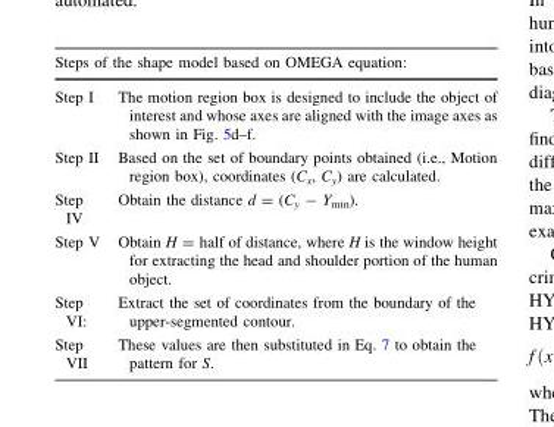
<table><thead><tr><td colspan="2">Steps of the shape model based on OMEGA equation:</td></tr><tr><td>Step I</td><td>The motion region box is designed to include the object of interest and whose axes are aligned with the image axes as shown in Fig. 5d–f.</td></tr></thead><tbody><tr><td>Step II</td><td>Based on the set of boundary points obtained (i.e., Motion region box), coordinates (C<sub>x</sub>, C<sub>y</sub>) are calculated.</td></tr><tr><td>Step IV</td><td>Obtain the distance d = (C<sub>y</sub> - Y<sub>min</sub>).</td></tr><tr><td>Step V</td><td>Obtain H = half of distance, where H is the window height for extracting the head and shoulder portion of the human object.</td></tr><tr><td>Step VI:</td><td>Extract the set of coordinates from the boundary of the upper-segmented contour.</td></tr><tr><td>Step VII</td><td>These values are then substituted in Eq. 7 to obtain the pattern for S.</td></tr></tbody></table>